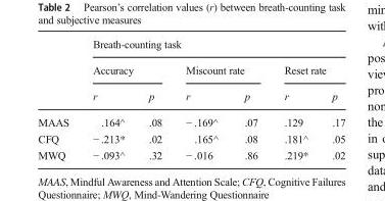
<table><thead><tr><td rowspan="3"></td><td colspan="6">Breath-counting task</td></tr><tr><td colspan="2">Accuracy</td><td colspan="2">Miscount rate</td><td colspan="2">Reset rate</td></tr><tr><td>r</td><td>p</td><td>r</td><td>p</td><td>r</td><td>p</td></tr></thead><tbody><tr><td>MAAS</td><td>.164^</td><td>.08</td><td>− .169^</td><td>.07</td><td>.129</td><td>.17</td></tr><tr><td>CFQ</td><td>− .213*</td><td>.02</td><td>.165^</td><td>.08</td><td>.181^</td><td>.05</td></tr><tr><td>MWQ</td><td>− .093^</td><td>.32</td><td>− .016</td><td>.86</td><td>.219*</td><td>.02</td></tr></tbody></table>